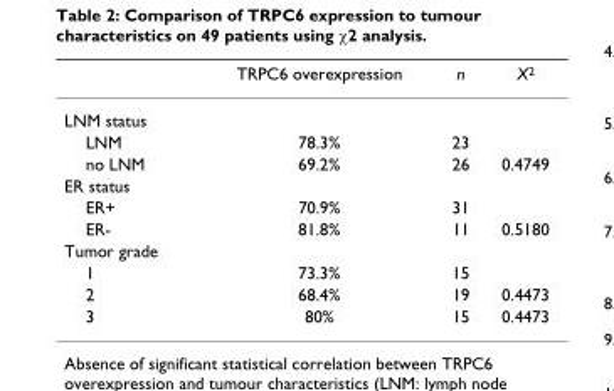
<table><thead><tr><td></td><td>TRPC6 overexpression</td><td>n</td><td>X<sup>2</sup></td></tr></thead><tbody><tr><td colspan="4">LNM status</td></tr><tr><td>LNM</td><td>78.3%</td><td>23</td><td></td></tr><tr><td>no LNM</td><td>69.2%</td><td>26</td><td>0.4749</td></tr><tr><td colspan="4">ER status</td></tr><tr><td>ER+</td><td>70.9%</td><td>31</td><td></td></tr><tr><td>ER-</td><td>81.8%</td><td>11</td><td>0.5180</td></tr><tr><td colspan="4">Tumor grade</td></tr><tr><td>1</td><td>73.3%</td><td>15</td><td></td></tr><tr><td>2</td><td>68.4%</td><td>19</td><td>0.4473</td></tr><tr><td>3</td><td>80%</td><td>15</td><td>0.4473</td></tr></tbody></table>